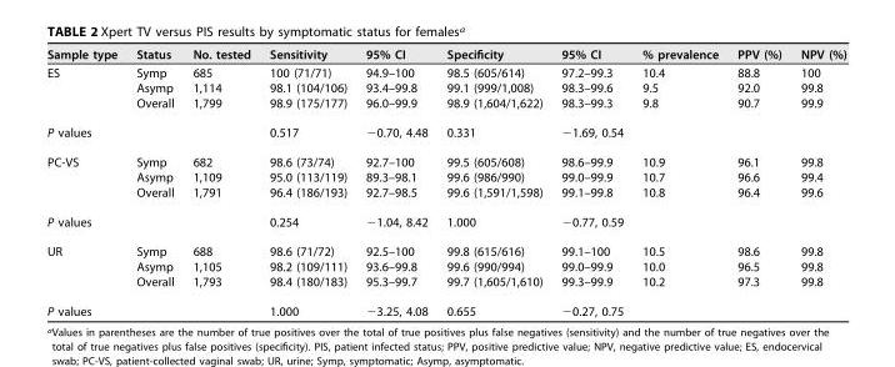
<table><thead><tr><td>Sample type</td><td>Status</td><td>No. tested</td><td>Sensitivity</td><td>95% CI</td><td>Specificity</td><td>95% CI</td><td>% prevalence</td><td>PPV (%)</td><td>NPV (%)</td></tr></thead><tbody><tr><td rowspan="3">ES</td><td>Symp</td><td>685</td><td>100 (71/71)</td><td>94.9–100</td><td>98.5 (605/614)</td><td>97.2–99.3</td><td>10.4</td><td>88.8</td><td>100</td></tr><tr><td>Asymp</td><td>1,114</td><td>98.1 (104/106)</td><td>93.4–99.8</td><td>99.1 (999/1,008)</td><td>98.3–99.6</td><td>9.5</td><td>92.0</td><td>99.8</td></tr><tr><td>Overall</td><td>1,799</td><td>98.9 (175/177)</td><td>96.0–99.9</td><td>98.9 (1,604/1,622)</td><td>98.3–99.3</td><td>9.8</td><td>90.7</td><td>99.9</td></tr><tr><td>P values</td><td></td><td></td><td>0.517</td><td>−0.70, 4.48</td><td>0.331</td><td>−1.69, 0.54</td><td></td><td></td><td></td></tr><tr><td rowspan="3">PC-VS</td><td>Symp</td><td>682</td><td>98.6 (73/74)</td><td>92.7–100</td><td>99.5 (605/608)</td><td>98.6–99.9</td><td>10.9</td><td>96.1</td><td>99.8</td></tr><tr><td>Asymp</td><td>1,109</td><td>95.0 (113/119)</td><td>89.3–98.1</td><td>99.6 (986/990)</td><td>99.0–99.9</td><td>10.7</td><td>96.6</td><td>99.4</td></tr><tr><td>Overall</td><td>1,791</td><td>96.4 (186/193)</td><td>92.7–98.5</td><td>99.6 (1,591/1,598)</td><td>99.1–99.8</td><td>10.8</td><td>96.4</td><td>99.6</td></tr><tr><td>P values</td><td></td><td></td><td>0.254</td><td>−1.04, 8.42</td><td>1.000</td><td>−0.77, 0.59</td><td></td><td></td><td></td></tr><tr><td rowspan="3">UR</td><td>Symp</td><td>688</td><td>98.6 (71/72)</td><td>92.5–100</td><td>99.8 (615/616)</td><td>99.1–100</td><td>10.5</td><td>98.6</td><td>99.8</td></tr><tr><td>Asymp</td><td>1,105</td><td>98.2 (109/111)</td><td>93.6–99.8</td><td>99.6 (990/994)</td><td>99.0–99.9</td><td>10.0</td><td>96.5</td><td>99.8</td></tr><tr><td>Overall</td><td>1,793</td><td>98.4 (180/183)</td><td>95.3–99.7</td><td>99.7 (1,605/1,610)</td><td>99.3–99.9</td><td>10.2</td><td>97.3</td><td>99.8</td></tr><tr><td>P values</td><td></td><td></td><td>1.000</td><td>−3.25, 4.08</td><td>0.655</td><td>−0.27, 0.75</td><td></td><td></td><td></td></tr></tbody></table>